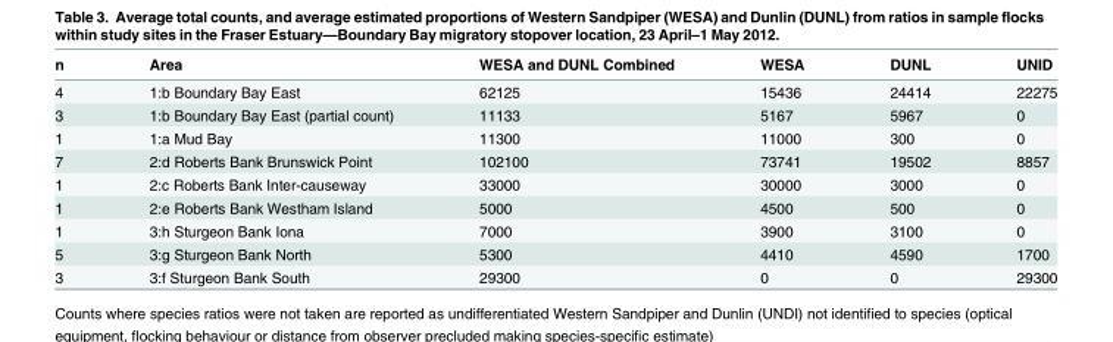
<table><thead><tr><td>n</td><td>Area</td><td>WESA and DUNL Combined</td><td>WESA</td><td>DUNL</td><td>UNID</td></tr></thead><tbody><tr><td>4</td><td>1:b Boundary Bay East</td><td>62125</td><td>15436</td><td>24414</td><td>22275</td></tr><tr><td>3</td><td>1:b Boundary Bay East (partial count)</td><td>11133</td><td>5167</td><td>5967</td><td>0</td></tr><tr><td>1</td><td>1:a Mud Bay</td><td>11300</td><td>11000</td><td>300</td><td>0</td></tr><tr><td>7</td><td>2:d Roberts Bank Brunswick Point</td><td>102100</td><td>73741</td><td>19502</td><td>8857</td></tr><tr><td>1</td><td>2:c Roberts Bank Inter-causeway</td><td>33000</td><td>30000</td><td>3000</td><td>0</td></tr><tr><td>1</td><td>2:e Roberts Bank Westham Island</td><td>5000</td><td>4500</td><td>500</td><td>0</td></tr><tr><td>1</td><td>3:h Sturgeon Bank Iona</td><td>7000</td><td>3900</td><td>3100</td><td>0</td></tr><tr><td>5</td><td>3:g Sturgeon Bank North</td><td>5300</td><td>4410</td><td>4590</td><td>1700</td></tr><tr><td>3</td><td>3:f Sturgeon Bank South</td><td>29300</td><td>0</td><td>0</td><td>29300</td></tr></tbody></table>